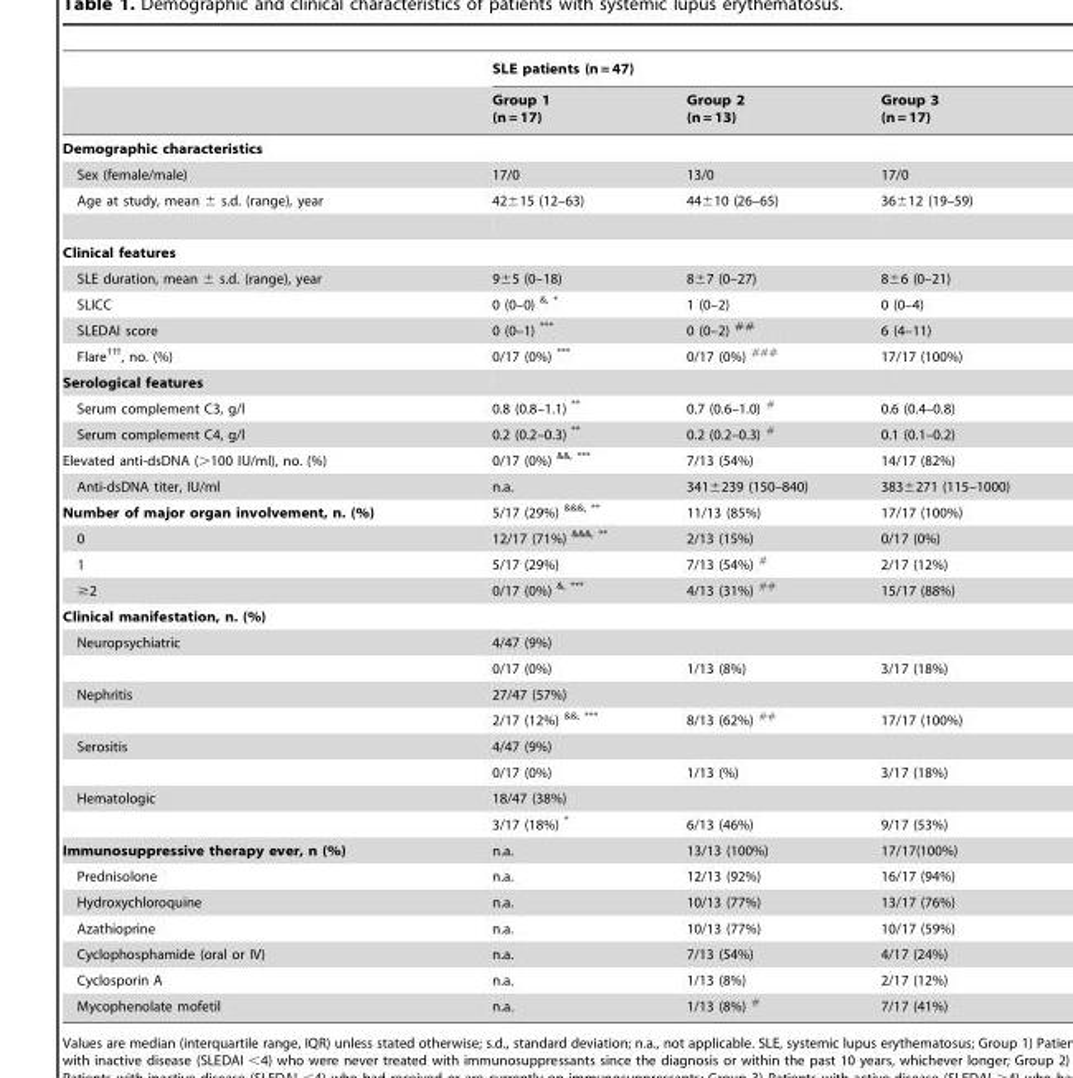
<table><thead><tr><td rowspan="2"></td><td colspan="3">SLE patients (n = 47)</td></tr><tr><td>Group 1 (n = 17)</td><td>Group 2 (n = 13)</td><td>Group 3 (n = 17)</td></tr></thead><tbody><tr><td colspan="4">Demographic characteristics</td></tr><tr><td>Sex (female/male)</td><td>17/0</td><td>13/0</td><td>17/0</td></tr><tr><td>Age at study, mean ± s.d. (range), year</td><td>42±15 (12–63)</td><td>44±10 (26–65)</td><td>36±12 (19–59)</td></tr><tr><td colspan="4">Clinical features</td></tr><tr><td>SLE duration, mean ± s.d. (range), year</td><td>9±5 (0–18)</td><td>8±7 (0–27)</td><td>8±6 (0–21)</td></tr><tr><td>SLICC</td><td>0 (0–0) &amp;, *</td><td>1 (0–2)</td><td>0 (0–4)</td></tr><tr><td>SLEDAI score</td><td>0 (0–1) ***</td><td>0 (0–2) ##</td><td>6 (4–11)</td></tr><tr><td>Flare┼┼┼, no. (%)</td><td>0/17 (0%) ***</td><td>0/17 (0%) ###</td><td>17/17 (100%)</td></tr><tr><td colspan="4">Serological features</td></tr><tr><td>Serum complement C3, g/l</td><td>0.8 (0.8–1.1) **</td><td>0.7 (0.6–1.0) #</td><td>0.6 (0.4–0.8)</td></tr><tr><td>Serum complement C4, g/l</td><td>0.2 (0.2–0.3) **</td><td>0.2 (0.2–0.3) #</td><td>0.1 (0.1–0.2)</td></tr><tr><td>Elevated anti-dsDNA (&gt;100 IU/ml), no. (%)</td><td>0/17 (0%) &amp;&amp;, ***</td><td>7/13 (54%)</td><td>14/17 (82%)</td></tr><tr><td>Anti-dsDNA titer, IU/ml</td><td>n.a.</td><td>341±239 (150–840)</td><td>383±271 (115–1000)</td></tr><tr><td>Number of major organ involvement, n. (%)</td><td>5/17 (29%) &amp;&amp;&amp;, **</td><td>11/13 (85%)</td><td>17/17 (100%)</td></tr><tr><td>0</td><td>12/17 (71%) &amp;&amp;&amp;, **</td><td>2/13 (15%)</td><td>0/17 (0%)</td></tr><tr><td>1</td><td>5/17 (29%)</td><td>7/13 (54%) #</td><td>2/17 (12%)</td></tr><tr><td>≥2</td><td>0/17 (0%) &amp;, ***</td><td>4/13 (31%) ##</td><td>15/17 (88%)</td></tr><tr><td colspan="4">Clinical manifestation, n. (%)</td></tr><tr><td rowspan="2">Neuropsychiatric</td><td colspan="3">4/47 (9%)</td></tr><tr><td>0/17 (0%)</td><td>1/13 (8%)</td><td>3/17 (18%)</td></tr><tr><td rowspan="2">Nephritis</td><td colspan="3">27/47 (57%)</td></tr><tr><td>2/17 (12%) &amp;&amp;, ***</td><td>8/13 (62%) ##</td><td>17/17 (100%)</td></tr><tr><td rowspan="2">Serositis</td><td colspan="3">4/47 (9%)</td></tr><tr><td>0/17 (0%)</td><td>1/13 (%)</td><td>3/17 (18%)</td></tr><tr><td rowspan="2">Hematologic</td><td colspan="3">18/47 (38%)</td></tr><tr><td>3/17 (18%) *</td><td>6/13 (46%)</td><td>9/17 (53%)</td></tr><tr><td>Immunosuppressive therapy ever, n (%)</td><td>n.a.</td><td>13/13 (100%)</td><td>17/17(100%)</td></tr><tr><td>Prednisolone</td><td>n.a.</td><td>12/13 (92%)</td><td>16/17 (94%)</td></tr><tr><td>Hydroxychloroquine</td><td>n.a.</td><td>10/13 (77%)</td><td>13/17 (76%)</td></tr><tr><td>Azathioprine</td><td>n.a.</td><td>10/13 (77%)</td><td>10/17 (59%)</td></tr><tr><td>Cyclophosphamide (oral or IV)</td><td>n.a.</td><td>7/13 (54%)</td><td>4/17 (24%)</td></tr><tr><td>Cyclosporin A</td><td>n.a.</td><td>1/13 (8%)</td><td>2/17 (12%)</td></tr><tr><td>Mycophenolate mofetil</td><td>n.a.</td><td>1/13 (8%) #</td><td>7/17 (41%)</td></tr></tbody></table>